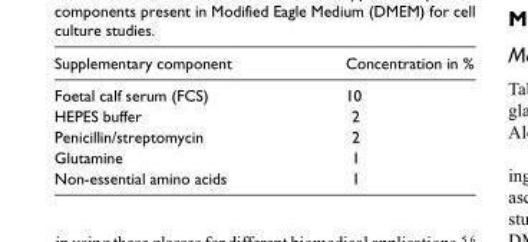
<table><thead><tr><td>Supplementary component</td><td>Concentration in %</td></tr></thead><tbody><tr><td>Foetal calf serum (FCS)</td><td>10</td></tr><tr><td>HEPES buffer</td><td>2</td></tr><tr><td>Penicillin/streptomycin</td><td>2</td></tr><tr><td>Glutamine</td><td>1</td></tr><tr><td>Non-essential amino acids</td><td>1</td></tr></tbody></table>